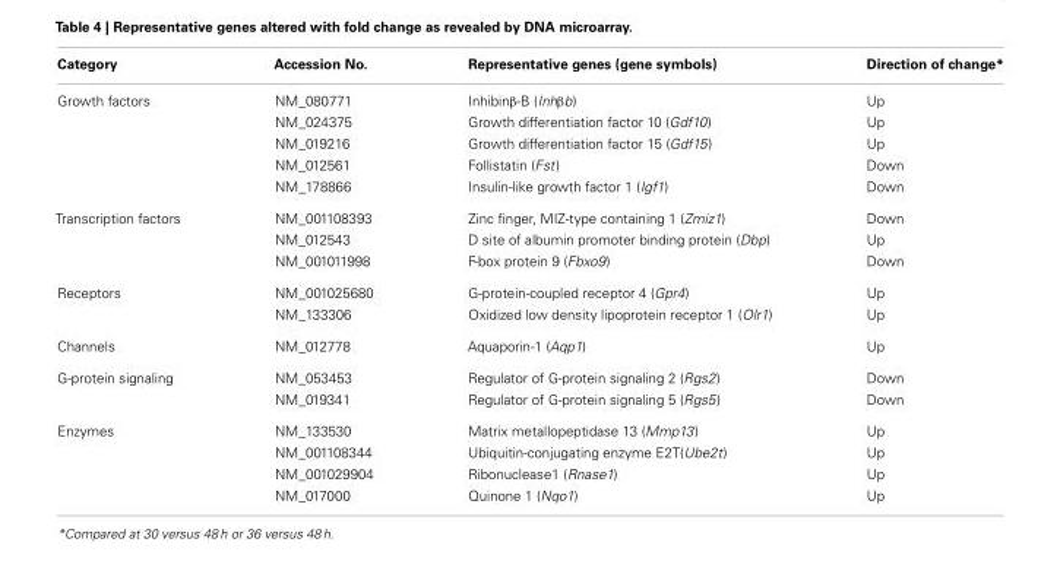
<table><thead><tr><td>Category</td><td>Accession No.</td><td>Representative genes (gene symbols)</td><td>Direction of change*</td></tr></thead><tbody><tr><td rowspan="5">Growth factors</td><td>NM_080771</td><td>Inhibinβ-B (Inhβb)</td><td>Up</td></tr><tr><td>NM_024375</td><td>Growth differentiation factor 10 (Gdf10)</td><td>Up</td></tr><tr><td>NM_019216</td><td>Growth differentiation factor 15 (Gdf15)</td><td>Up</td></tr><tr><td>NM_012561</td><td>Follistatin (Fst)</td><td>Down</td></tr><tr><td>NM_178866</td><td>Insulin-like growth factor 1 (Igf1)</td><td>Down</td></tr><tr><td rowspan="3">Transcription factors</td><td>NM_001108393</td><td>Zinc finger, MIZ-type containing 1 (Zmiz1)</td><td>Down</td></tr><tr><td>NM_012543</td><td>D site of albumin promoter binding protein (Dbp)</td><td>Up</td></tr><tr><td>NM_001011998</td><td>F-box protein 9 (Fbxo9)</td><td>Down</td></tr><tr><td rowspan="2">Receptors</td><td>NM_001025680</td><td>G-protein-coupled receptor 4 (Gpr4)</td><td>Up</td></tr><tr><td>NM_133306</td><td>Oxidized low density lipoprotein receptor 1 (Olr1)</td><td>Up</td></tr><tr><td>Channels</td><td>NM_012778</td><td>Aquaporin-1 (Aqp1)</td><td>Up</td></tr><tr><td rowspan="2">G-protein signaling</td><td>NM_053453</td><td>Regulator of G-protein signaling 2 (Rgs2)</td><td>Down</td></tr><tr><td>NM_019341</td><td>Regulator of G-protein signaling 5 (Rgs5)</td><td>Down</td></tr><tr><td rowspan="4">Enzymes</td><td>NM_133530</td><td>Matrix metallopeptidase 13 (Mmp13)</td><td>Up</td></tr><tr><td>NM_001108344</td><td>Ubiquitin-conjugating enzyme E2T(Ube2t)</td><td>Up</td></tr><tr><td>NM_001029904</td><td>Ribonuclease1 (Rnase1)</td><td>Up</td></tr><tr><td>NM_017000</td><td>Quinone 1 (Nqo1)</td><td>Up</td></tr></tbody></table>